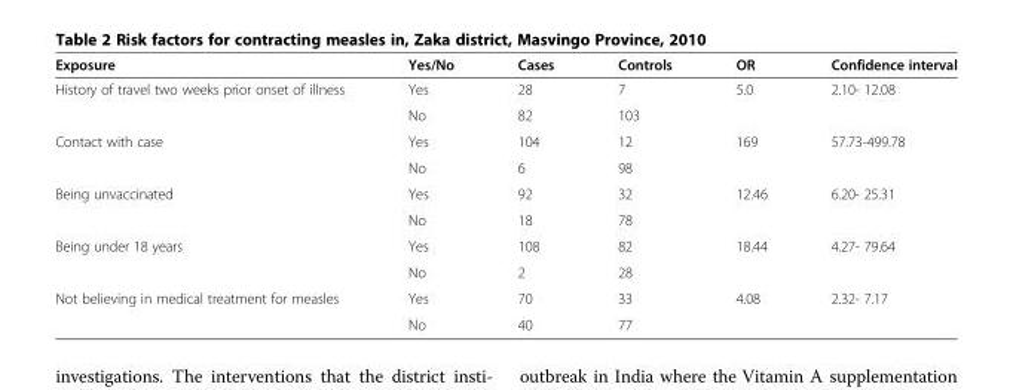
<table><thead><tr><td>Exposure</td><td>Yes/No</td><td>Cases</td><td>Controls</td><td>OR</td><td>Confidence interval</td></tr></thead><tbody><tr><td rowspan="2">History of travel two weeks prior onset of illness</td><td>Yes</td><td>28</td><td>7</td><td>5.0</td><td>2.10- 12.08</td></tr><tr><td>No</td><td>82</td><td>103</td><td></td><td></td></tr><tr><td rowspan="2">Contact with case</td><td>Yes</td><td>104</td><td>12</td><td>169</td><td>57.73-499.78</td></tr><tr><td>No</td><td>6</td><td>98</td><td></td><td></td></tr><tr><td rowspan="2">Being unvaccinated</td><td>Yes</td><td>92</td><td>32</td><td>12.46</td><td>6.20- 25.31</td></tr><tr><td>No</td><td>18</td><td>78</td><td></td><td></td></tr><tr><td rowspan="2">Being under 18 years</td><td>Yes</td><td>108</td><td>82</td><td>18.44</td><td>4.27- 79.64</td></tr><tr><td>No</td><td>2</td><td>28</td><td></td><td></td></tr><tr><td rowspan="2">Not believing in medical treatment for measles</td><td>Yes</td><td>70</td><td>33</td><td>4.08</td><td>2.32- 7.17</td></tr><tr><td>No</td><td>40</td><td>77</td><td></td><td></td></tr></tbody></table>